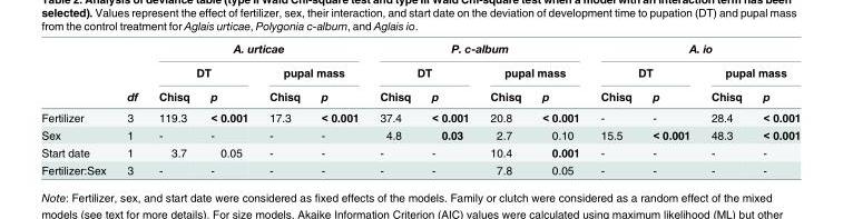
<table><thead><tr><td rowspan="3"></td><td rowspan="3">df</td><td colspan="4">A. urticae</td><td colspan="4">P. c-album</td><td colspan="4">A. io</td></tr><tr><td colspan="2">DT</td><td colspan="2">pupal mass</td><td colspan="2">DT</td><td colspan="2">pupal mass</td><td colspan="2">DT</td><td colspan="2">pupal mass</td></tr><tr><td>Chisq</td><td>p</td><td>Chisq</td><td>p</td><td>Chisq</td><td>p</td><td>Chisq</td><td>p</td><td>Chisq</td><td>p</td><td>Chisq</td><td>p</td></tr></thead><tbody><tr><td>Fertilizer</td><td>3</td><td>119.3</td><td>&lt; 0.001</td><td>17.3</td><td>&lt; 0.001</td><td>37.4</td><td>&lt; 0.001</td><td>20.8</td><td>&lt; 0.001</td><td>-</td><td>-</td><td>28.4</td><td>&lt; 0.001</td></tr><tr><td>Sex</td><td>1</td><td>-</td><td>-</td><td>-</td><td>-</td><td>4.8</td><td>0.03</td><td>2.7</td><td>0.10</td><td>15.5</td><td>&lt; 0.001</td><td>48.3</td><td>&lt; 0.001</td></tr><tr><td>Start date</td><td>1</td><td>3.7</td><td>0.05</td><td>-</td><td>-</td><td>-</td><td>-</td><td>10.4</td><td>0.001</td><td>-</td><td>-</td><td>-</td><td>-</td></tr><tr><td>Fertilizer:Sex</td><td>3</td><td>-</td><td>-</td><td>-</td><td>-</td><td>-</td><td>-</td><td>7.8</td><td>0.05</td><td>-</td><td>-</td><td>-</td><td>-</td></tr></tbody></table>